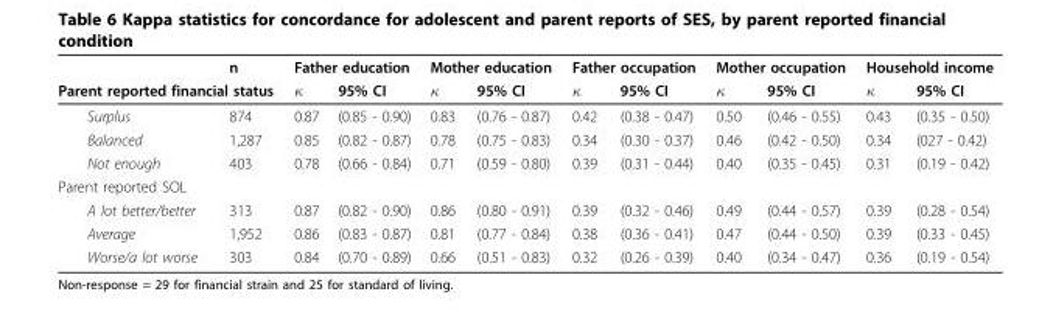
<table><thead><tr><td></td><td>n</td><td colspan="2">Father education</td><td colspan="2">Mother education</td><td colspan="2">Father occupation</td><td colspan="2">Mother occupation</td><td colspan="2">Household income</td></tr><tr><td colspan="2">Parent reported financial status</td><td>κ</td><td>95% CI</td><td>κ</td><td>95% CI</td><td>κ</td><td>95% CI</td><td>κ</td><td>95% CI</td><td>κ</td><td>95% CI</td></tr></thead><tbody><tr><td>Surplus</td><td>874</td><td>0.87</td><td>(0.85 - 0.90)</td><td>0.83</td><td>(0.76 - 0.87)</td><td>0.42</td><td>(0.38 - 0.47)</td><td>0.50</td><td>(0.46 - 0.55)</td><td>0.43</td><td>(0.35 - 0.50)</td></tr><tr><td>Balanced</td><td>1,287</td><td>0.85</td><td>(0.82 - 0.87)</td><td>0.78</td><td>(0.75 - 0.83)</td><td>0.34</td><td>(0.30 - 0.37)</td><td>0.46</td><td>(0.42 - 0.50)</td><td>0.34</td><td>(027 - 0.42)</td></tr><tr><td>Not enough</td><td>403</td><td>0.78</td><td>(0.66 - 0.84)</td><td>0.71</td><td>(0.59 - 0.80)</td><td>0.39</td><td>(0.31 - 0.44)</td><td>0.40</td><td>(0.35 - 0.45)</td><td>0.31</td><td>(0.19 - 0.42)</td></tr><tr><td colspan="12">Parent reported SOL</td></tr><tr><td>A lot better/better</td><td>313</td><td>0.87</td><td>(0.82 - 0.90)</td><td>0.86</td><td>(0.80 - 0.91)</td><td>0.39</td><td>(0.32 - 0.46)</td><td>0.49</td><td>(0.44 - 0.57)</td><td>0.39</td><td>(0.28 - 0.54)</td></tr><tr><td>Average</td><td>1,952</td><td>0.86</td><td>(0.83 - 0.87)</td><td>0.81</td><td>(0.77 - 0.84)</td><td>0.38</td><td>(0.36 - 0.41)</td><td>0.47</td><td>(0.44 - 0.50)</td><td>0.39</td><td>(0.33 - 0.45)</td></tr><tr><td>Worse/a lot worse</td><td>303</td><td>0.84</td><td>(0.70 - 0.89)</td><td>0.66</td><td>(0.51 - 0.83)</td><td>0.32</td><td>(0.26 - 0.39)</td><td>0.40</td><td>(0.34 - 0.47)</td><td>0.36</td><td>(0.19 - 0.54)</td></tr></tbody></table>